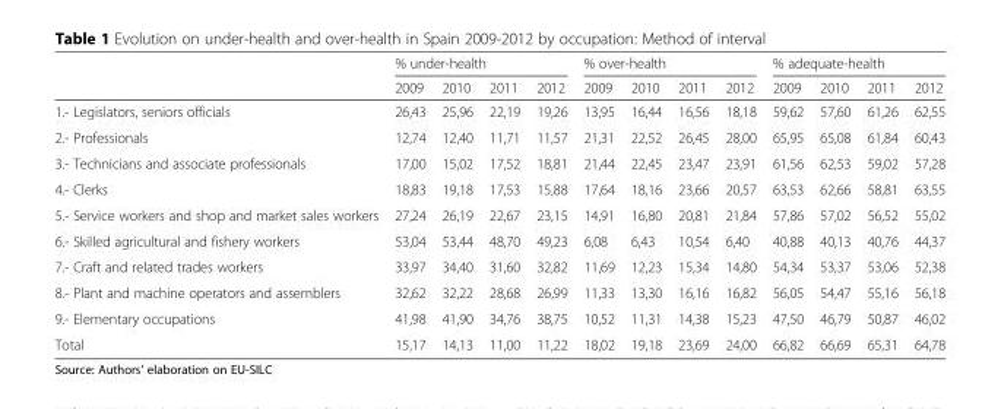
<table><thead><tr><td rowspan="2"></td><td colspan="4">% under-health</td><td colspan="4">% over-health</td><td colspan="4">% adequate-health</td></tr><tr><td>2009</td><td>2010</td><td>2011</td><td>2012</td><td>2009</td><td>2010</td><td>2011</td><td>2012</td><td>2009</td><td>2010</td><td>2011</td><td>2012</td></tr></thead><tbody><tr><td>1.- Legislators, seniors officials</td><td>26,43</td><td>25,96</td><td>22,19</td><td>19,26</td><td>13,95</td><td>16,44</td><td>16,56</td><td>18,18</td><td>59,62</td><td>57,60</td><td>61,26</td><td>62,55</td></tr><tr><td>2.- Professionals</td><td>12,74</td><td>12,40</td><td>11,71</td><td>11,57</td><td>21,31</td><td>22,52</td><td>26,45</td><td>28,00</td><td>65,95</td><td>65,08</td><td>61,84</td><td>60,43</td></tr><tr><td>3.- Technicians and associate professionals</td><td>17,00</td><td>15,02</td><td>17,52</td><td>18,81</td><td>21,44</td><td>22,45</td><td>23,47</td><td>23,91</td><td>61,56</td><td>62,53</td><td>59,02</td><td>57,28</td></tr><tr><td>4.- Clerks</td><td>18,83</td><td>19,18</td><td>17,53</td><td>15,88</td><td>17,64</td><td>18,16</td><td>23,66</td><td>20,57</td><td>63,53</td><td>62,66</td><td>58,81</td><td>63,55</td></tr><tr><td>5.- Service workers and shop and market sales workers</td><td>27,24</td><td>26,19</td><td>22,67</td><td>23,15</td><td>14,91</td><td>16,80</td><td>20,81</td><td>21,84</td><td>57,86</td><td>57,02</td><td>56,52</td><td>55,02</td></tr><tr><td>6.- Skilled agricultural and fishery workers</td><td>53,04</td><td>53,44</td><td>48,70</td><td>49,23</td><td>6,08</td><td>6,43</td><td>10,54</td><td>6,40</td><td>40,88</td><td>40,13</td><td>40,76</td><td>44,37</td></tr><tr><td>7.- Craft and related trades workers</td><td>33,97</td><td>34,40</td><td>31,60</td><td>32,82</td><td>11,69</td><td>12,23</td><td>15,34</td><td>14,80</td><td>54,34</td><td>53,37</td><td>53,06</td><td>52,38</td></tr><tr><td>8.- Plant and machine operators and assemblers</td><td>32,62</td><td>32,22</td><td>28,68</td><td>26,99</td><td>11,33</td><td>13,30</td><td>16,16</td><td>16,82</td><td>56,05</td><td>54,47</td><td>55,16</td><td>56,18</td></tr><tr><td>9.- Elementary occupations</td><td>41,98</td><td>41,90</td><td>34,76</td><td>38,75</td><td>10,52</td><td>11,31</td><td>14,38</td><td>15,23</td><td>47,50</td><td>46,79</td><td>50,87</td><td>46,02</td></tr><tr><td>Total</td><td>15,17</td><td>14,13</td><td>11,00</td><td>11,22</td><td>18,02</td><td>19,18</td><td>23,69</td><td>24,00</td><td>66,82</td><td>66,69</td><td>65,31</td><td>64,78</td></tr></tbody></table>